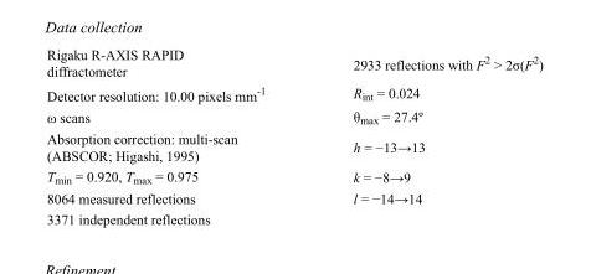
<table><tbody><tr><td>Rigaku R-AXIS RAPID diffractometer</td><td>2933 reflections with F<sup>2</sup> &gt; 2σ(F<sup>2</sup>)</td></tr><tr><td>Detector resolution: 10.00 pixels mm<sup>-1</sup></td><td>R<sub>int</sub> = 0.024</td></tr><tr><td>ω scans</td><td>θmax = 27.4º</td></tr><tr><td>Absorption correction: multi-scan (ABSCOR; Higashi, 1995)</td><td>h = −13→13</td></tr><tr><td>T<sub>min</sub> = 0.920, T<sub>max</sub> = 0.975</td><td>k = −8→9</td></tr><tr><td>8064 measured reflections</td><td>l = −14→14</td></tr><tr><td>3371 independent reflections</td><td></td></tr></tbody></table>